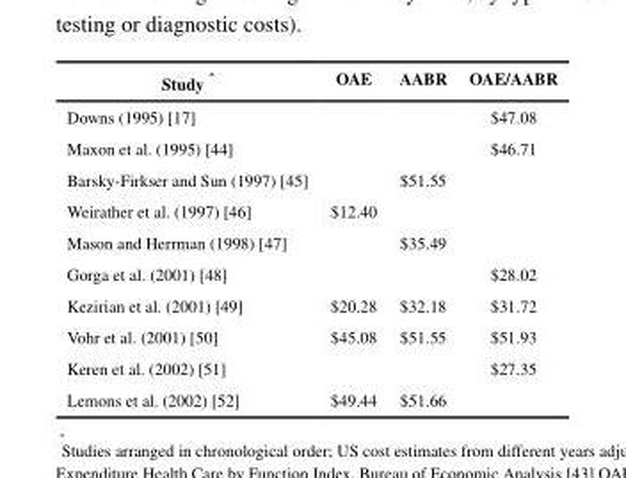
<table><thead><tr><td>Study ˆ</td><td>OAE</td><td>AABR</td><td>OAE/AABR</td></tr></thead><tbody><tr><td>Downs (1995) [17]</td><td></td><td></td><td>$47.08</td></tr><tr><td>Maxon et al. (1995) [44]</td><td></td><td></td><td>$46.71</td></tr><tr><td>Barsky-Firkser and Sun (1997) [45]</td><td></td><td>$51.55</td><td></td></tr><tr><td>Weirather et al. (1997) [46]</td><td>$12.40</td><td></td><td></td></tr><tr><td>Mason and Herrman (1998) [47]</td><td></td><td>$35.49</td><td></td></tr><tr><td>Gorga et al. (2001) [48]</td><td></td><td></td><td>$28.02</td></tr><tr><td>Kezirian et al. (2001) [49]</td><td>$20.28</td><td>$32.18</td><td>$31.72</td></tr><tr><td>Vohr et al. (2001) [50]</td><td>$45.08</td><td>$51.55</td><td>$51.93</td></tr><tr><td>Keren et al. (2002) [51]</td><td></td><td></td><td>$27.35</td></tr><tr><td>Lemons et al. (2002) [52]</td><td>$49.44</td><td>$51.66</td><td></td></tr></tbody></table>